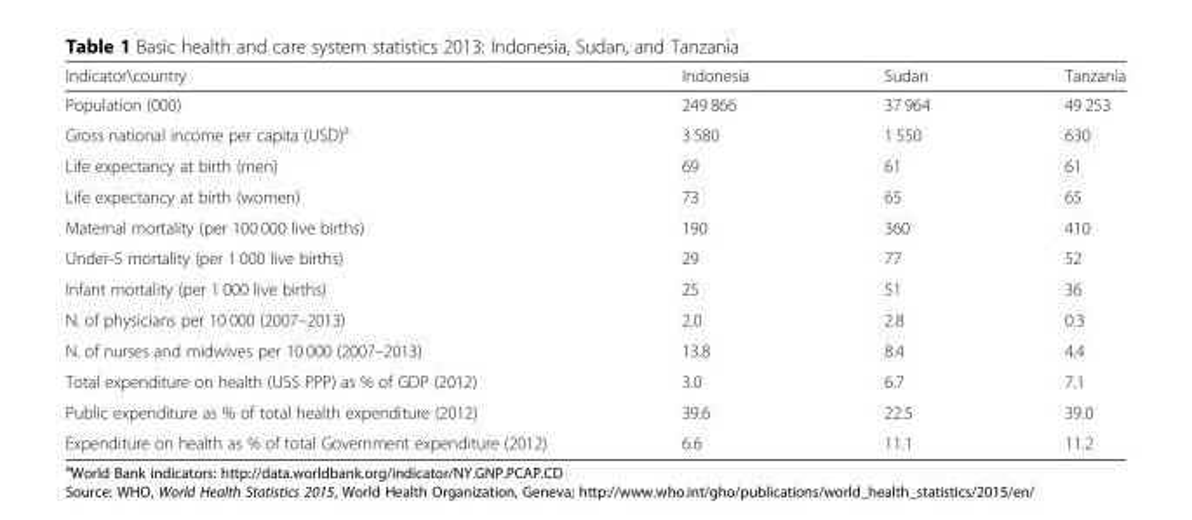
<table><thead><tr><td>Indicator\country</td><td>Indonesia</td><td>Sudan</td><td>Tanzania</td></tr></thead><tbody><tr><td>Population (000)</td><td>249 866</td><td>37 964</td><td>49 253</td></tr><tr><td>Gross national income per capita (USD)<sup>a</sup></td><td>3 580</td><td>1 550</td><td>630</td></tr><tr><td>Life expectancy at birth (men)</td><td>69</td><td>61</td><td>61</td></tr><tr><td>Life expectancy at birth (women)</td><td>73</td><td>65</td><td>65</td></tr><tr><td>Maternal mortality (per 100 000 live births)</td><td>190</td><td>360</td><td>410</td></tr><tr><td>Under-5 mortality (per 1 000 live births)</td><td>29</td><td>77</td><td>52</td></tr><tr><td>Infant mortality (per 1 000 live births)</td><td>25</td><td>51</td><td>36</td></tr><tr><td>N. of physicians per 10 000 (2007–2013)</td><td>2.0</td><td>2.8</td><td>0.3</td></tr><tr><td>N. of nurses and midwives per 10 000 (2007–2013)</td><td>13.8</td><td>8.4</td><td>4.4</td></tr><tr><td>Total expenditure on health (US$ PPP) as % of GDP (2012)</td><td>3.0</td><td>6.7</td><td>7.1</td></tr><tr><td>Public expenditure as % of total health expenditure (2012)</td><td>39.6</td><td>22.5</td><td>39.0</td></tr><tr><td>Expenditure on health as % of total Government expenditure (2012)</td><td>6.6</td><td>11.1</td><td>11.2</td></tr></tbody></table>